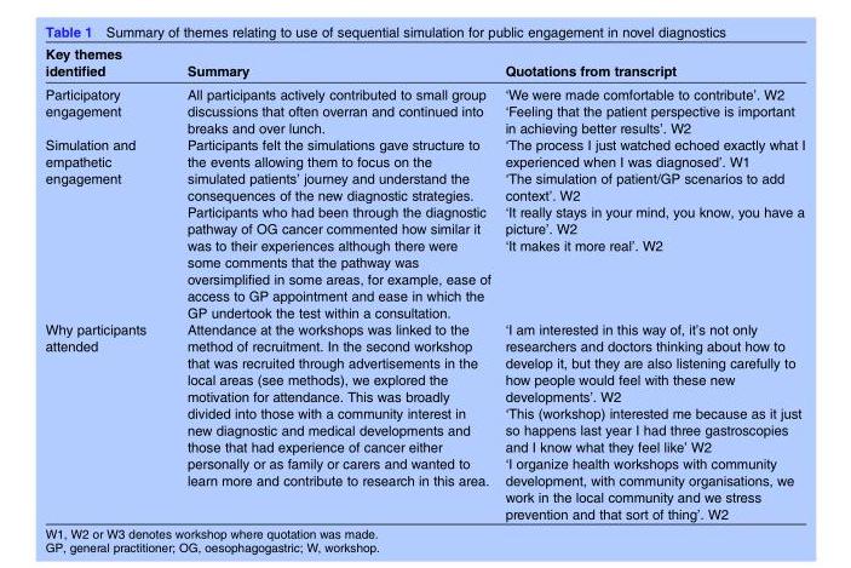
<table><thead><tr><td>Key themes identified</td><td>Summary</td><td>Quotations from transcript</td></tr></thead><tbody><tr><td>Participatory engagement</td><td>All participants actively contributed to small group discussions that often overran and continued into breaks and over lunch.</td><td>‘We were made comfortable to contribute’. W2 ‘Feeling that the patient perspective is important in achieving better results’. W2</td></tr><tr><td>Simulation and empathetic engagement</td><td>Participants felt the simulations gave structure to the events allowing them to focus on the simulated patients’ journey and understand the consequences of the new diagnostic strategies. Participants who had been through the diagnostic pathway of OG cancer commented how similar it was to their experiences although there were some comments that the pathway was oversimplified in some areas, for example, ease of access to GP appointment and ease in which the GP undertook the test within a consultation.</td><td>‘The process I just watched echoed exactly what I experienced when I was diagnosed’. W1 ‘The simulation of patient/GP scenarios to add context’. W2 ‘It really stays in your mind, you know, you have a picture’. W2 ‘It makes it more real’. W2</td></tr><tr><td>Why participants attended</td><td>Attendance at the workshops was linked to the method of recruitment. In the second workshop that was recruited through advertisements in the local areas (see methods), we explored the motivation for attendance. This was broadly divided into those with a community interest in new diagnostic and medical developments and those that had experience of cancer either personally or as family or carers and wanted to learn more and contribute to research in this area.</td><td>‘I am interested in this way of, it’s not only researchers and doctors thinking about how to develop it, but they are also listening carefully to how people would feel with these new developments’. W2 ‘This (workshop) interested me because as it just so happens last year I had three gastroscopies and I know what they feel like’ W2 ‘I organize health workshops with community development, with community organisations, we work in the local community and we stress prevention and that sort of thing’. W2</td></tr></tbody></table>